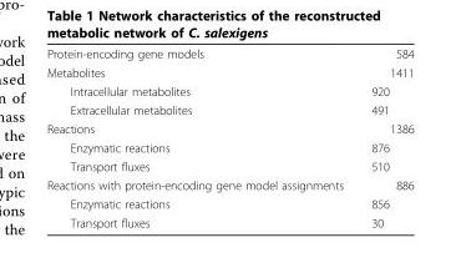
<table><tbody><tr><td>Protein-encoding gene models</td><td>584</td></tr><tr><td>Metabolites</td><td>1411</td></tr><tr><td>Intracellular metabolites</td><td>920</td></tr><tr><td>Extracellular metabolites</td><td>491</td></tr><tr><td>Reactions</td><td>1386</td></tr><tr><td>Enzymatic reactions</td><td>876</td></tr><tr><td>Transport fluxes</td><td>510</td></tr><tr><td>Reactions with protein-encoding gene model assignments</td><td>886</td></tr><tr><td>Enzymatic reactions</td><td>856</td></tr><tr><td>Transport fluxes</td><td>30</td></tr></tbody></table>